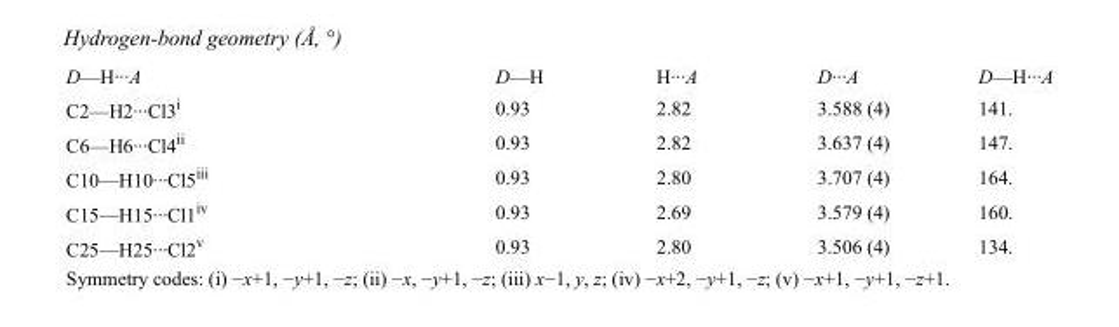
<table><tbody><tr><td>D—H···A</td><td>D—H</td><td>H···A</td><td>D···A</td><td>D—H···A</td></tr><tr><td>C2—H2···Cl3<sup>i</sup></td><td>0.93</td><td>2.82</td><td>3.588 (4)</td><td>141.</td></tr><tr><td>C6—H6···Cl4<sup>ii</sup></td><td>0.93</td><td>2.82</td><td>3.637 (4)</td><td>147.</td></tr><tr><td>C10—H10···Cl5<sup>iii</sup></td><td>0.93</td><td>2.80</td><td>3.707 (4)</td><td>164.</td></tr><tr><td>C15—H15···Cl1<sup>iv</sup></td><td>0.93</td><td>2.69</td><td>3.579 (4)</td><td>160.</td></tr><tr><td>C25—H25···Cl2<sup>v</sup></td><td>0.93</td><td>2.80</td><td>3.506 (4)</td><td>134.</td></tr></tbody></table>